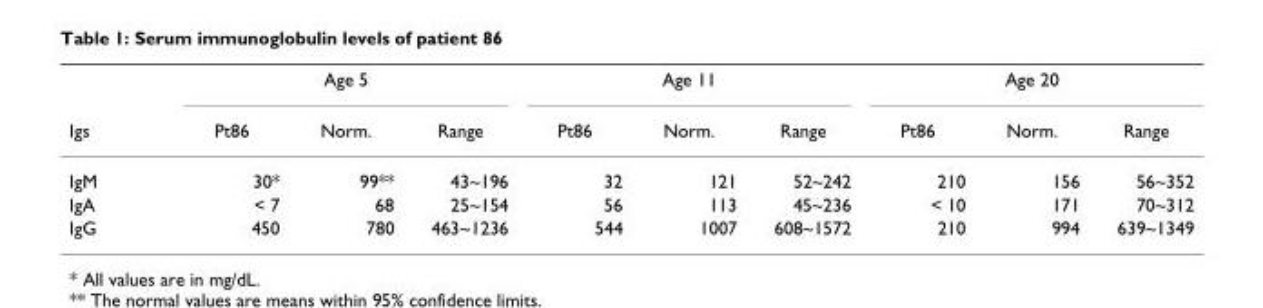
<table><thead><tr><td rowspan="2">Igs</td><td colspan="3">Age 5</td><td colspan="3">Age 11</td><td colspan="3">Age 20</td></tr><tr><td>Pt86</td><td>Norm.</td><td>Range</td><td>Pt86</td><td>Norm.</td><td>Range</td><td>Pt86</td><td>Norm.</td><td>Range</td></tr></thead><tbody><tr><td>IgM</td><td>30*</td><td>99**</td><td>43~196</td><td>32</td><td>121</td><td>52~242</td><td>210</td><td>156</td><td>56~352</td></tr><tr><td>IgA</td><td>&lt; 7</td><td>68</td><td>25~154</td><td>56</td><td>113</td><td>45~236</td><td>&lt; 10</td><td>171</td><td>70~312</td></tr><tr><td>IgG</td><td>450</td><td>780</td><td>463~1236</td><td>544</td><td>1007</td><td>608~1572</td><td>210</td><td>994</td><td>639~1349</td></tr></tbody></table>